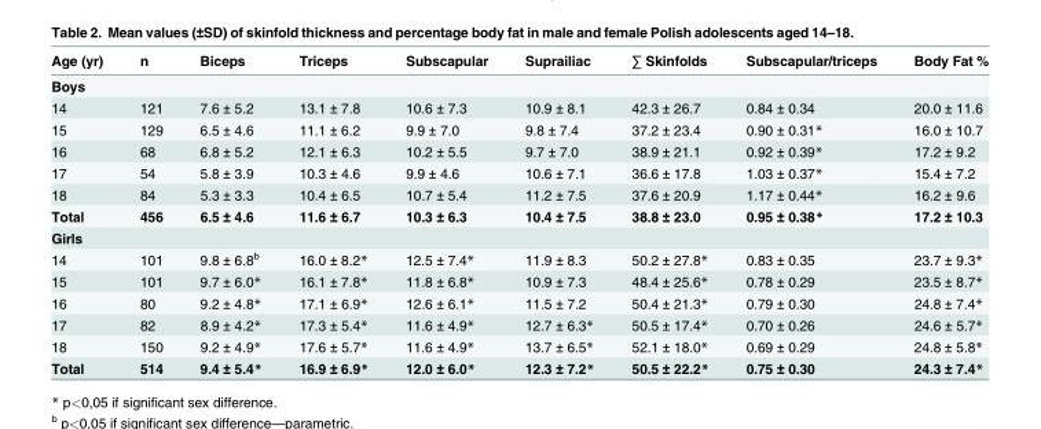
<table><thead><tr><td>Age (yr)</td><td>n</td><td>Biceps</td><td>Triceps</td><td>Subscapular</td><td>Suprailiac</td><td>∑ Skinfolds</td><td>Subscapular/triceps</td><td>Body Fat %</td></tr></thead><tbody><tr><td colspan="9">Boys</td></tr><tr><td>14</td><td>121</td><td>7.6 ± 5.2</td><td>13.1 ± 7.8</td><td>10.6 ± 7.3</td><td>10.9 ± 8.1</td><td>42.3 ± 26.7</td><td>0.84 ± 0.34</td><td>20.0 ± 11.6</td></tr><tr><td>15</td><td>129</td><td>6.5 ± 4.6</td><td>11.1 ± 6.2</td><td>9.9 ± 7.0</td><td>9.8 ± 7.4</td><td>37.2 ± 23.4</td><td>0.90 ± 0.31*</td><td>16.0 ± 10.7</td></tr><tr><td>16</td><td>68</td><td>6.8 ± 5.2</td><td>12.1 ± 6.3</td><td>10.2 ± 5.5</td><td>9.7 ± 7.0</td><td>38.9 ± 21.1</td><td>0.92 ± 0.39*</td><td>17.2 ± 9.2</td></tr><tr><td>17</td><td>54</td><td>5.8 ± 3.9</td><td>10.3 ± 4.6</td><td>9.9 ± 4.6</td><td>10.6 ± 7.1</td><td>36.6 ± 17.8</td><td>1.03 ± 0.37*</td><td>15.4 ± 7.2</td></tr><tr><td>18</td><td>84</td><td>5.3 ± 3.3</td><td>10.4 ± 6.5</td><td>10.7 ± 5.4</td><td>11.2 ± 7.5</td><td>37.6 ± 20.9</td><td>1.17 ± 0.44*</td><td>16.2 ± 9.6</td></tr><tr><td>Total</td><td>456</td><td>6.5 ± 4.6</td><td>11.6 ± 6.7</td><td>10.3 ± 6.3</td><td>10.4 ± 7.5</td><td>38.8 ± 23.0</td><td>0.95 ± 0.38*</td><td>17.2 ± 10.3</td></tr><tr><td colspan="9">Girls</td></tr><tr><td>14</td><td>101</td><td>9.8 ± 6.8<sup>b</sup></td><td>16.0 ± 8.2*</td><td>12.5 ± 7.4*</td><td>11.9 ± 8.3</td><td>50.2 ± 27.8*</td><td>0.83 ± 0.35</td><td>23.7 ± 9.3*</td></tr><tr><td>15</td><td>101</td><td>9.7 ± 6.0*</td><td>16.1 ± 7.8*</td><td>11.8 ± 6.8*</td><td>10.9 ± 7.3</td><td>48.4 ± 25.6*</td><td>0.78 ± 0.29</td><td>23.5 ± 8.7*</td></tr><tr><td>16</td><td>80</td><td>9.2 ± 4.8*</td><td>17.1 ± 6.9*</td><td>12.6 ± 6.1*</td><td>11.5 ± 7.2</td><td>50.4 ± 21.3*</td><td>0.79 ± 0.30</td><td>24.8 ± 7.4*</td></tr><tr><td>17</td><td>82</td><td>8.9 ± 4.2*</td><td>17.3 ± 5.4*</td><td>11.6 ± 4.9*</td><td>12.7 ± 6.3*</td><td>50.5 ± 17.4*</td><td>0.70 ± 0.26</td><td>24.6 ± 5.7*</td></tr><tr><td>18</td><td>150</td><td>9.2 ± 4.9*</td><td>17.6 ± 5.7*</td><td>11.6 ± 4.9*</td><td>13.7 ± 6.5*</td><td>52.1 ± 18.0*</td><td>0.69 ± 0.29</td><td>24.8 ± 5.8*</td></tr><tr><td>Total</td><td>514</td><td>9.4 ± 5.4*</td><td>16.9 ± 6.9*</td><td>12.0 ± 6.0*</td><td>12.3 ± 7.2*</td><td>50.5 ± 22.2*</td><td>0.75 ± 0.30</td><td>24.3 ± 7.4*</td></tr></tbody></table>